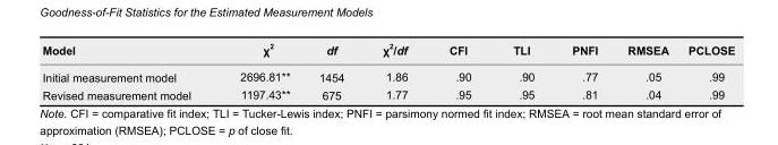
<table><thead><tr><td>Model</td><td>χ <sup>2</sup></td><td>df</td><td>χ <sup>2</sup>/df</td><td>CFI</td><td>TLI</td><td>PNFI</td><td>RMSEA</td><td>PCLOSE</td></tr></thead><tbody><tr><td>Initial measurement model</td><td>2696.81**</td><td>1454</td><td>1.86</td><td>.90</td><td>.90</td><td>.77</td><td>.05</td><td>.99</td></tr><tr><td>Revised measurement model</td><td>1197.43**</td><td>675</td><td>1.77</td><td>.95</td><td>.95</td><td>.81</td><td>.04</td><td>.99</td></tr></tbody></table>